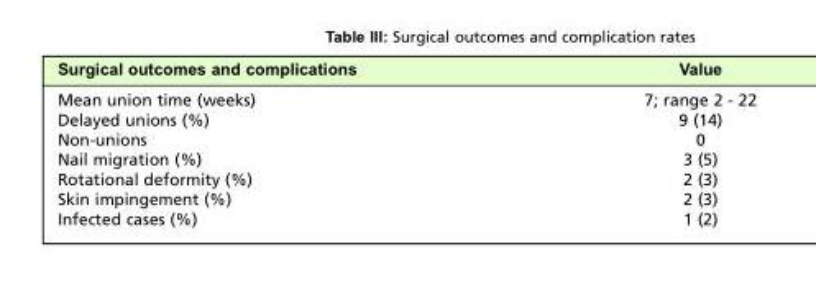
<table><thead><tr><td>Surgical outcomes and complications</td><td>Value</td></tr></thead><tbody><tr><td>Mean union time (weeks)</td><td>7; range 2 - 22</td></tr><tr><td>Delayed unions (%)</td><td>9 (14)</td></tr><tr><td>Non-unions</td><td>0</td></tr><tr><td>Nail migration (%)</td><td>3 (5)</td></tr><tr><td>Rotational deformity (%)</td><td>2 (3)</td></tr><tr><td>Skin impingement (%)</td><td>2 (3)</td></tr><tr><td>Infected cases (%)</td><td>1 (2)</td></tr></tbody></table>